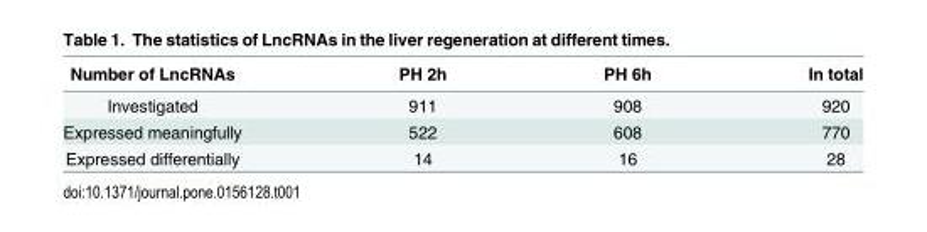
<table><thead><tr><td>Number of LncRNAs</td><td>PH 2h</td><td>PH 6h</td><td>In total</td></tr></thead><tbody><tr><td>Investigated</td><td>911</td><td>908</td><td>920</td></tr><tr><td>Expressed meaningfully</td><td>522</td><td>608</td><td>770</td></tr><tr><td>Expressed differentially</td><td>14</td><td>16</td><td>28</td></tr></tbody></table>